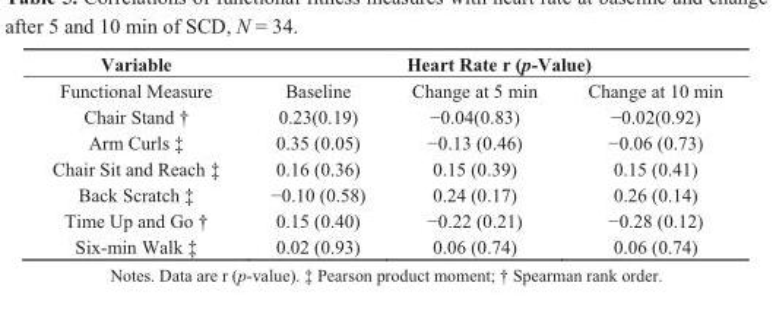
<table><thead><tr><td rowspan="2">Variable Functional Measure</td><td colspan="3">Heart Rate r (p-Value)</td></tr><tr><td>Baseline</td><td>Change at 5 min</td><td>Change at 10 min</td></tr></thead><tbody><tr><td>Chair Stand †</td><td>0.23(0.19)</td><td>−0.04(0.83)</td><td>−0.02(0.92)</td></tr><tr><td>Arm Curls ‡</td><td>0.35 (0.05)</td><td>−0.13 (0.46)</td><td>−0.06 (0.73)</td></tr><tr><td>Chair Sit and Reach ‡</td><td>0.16 (0.36)</td><td>0.15 (0.39)</td><td>0.15 (0.41)</td></tr><tr><td>Back Scratch ‡</td><td>−0.10 (0.58)</td><td>0.24 (0.17)</td><td>0.26 (0.14)</td></tr><tr><td>Time Up and Go †</td><td>0.15 (0.40)</td><td>−0.22 (0.21)</td><td>−0.28 (0.12)</td></tr><tr><td>Six-min Walk ‡</td><td>0.02 (0.93)</td><td>0.06 (0.74)</td><td>0.06 (0.74)</td></tr></tbody></table>